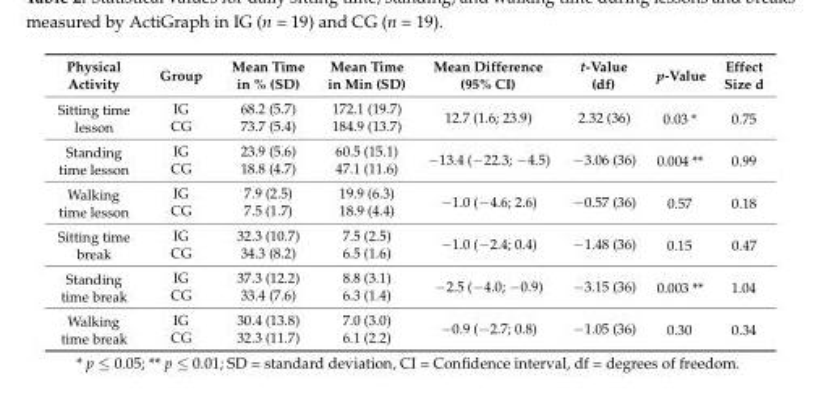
<table><thead><tr><td>Physical Activity</td><td>Group</td><td>Mean Time in % (SD)</td><td>Mean Time in Min (SD)</td><td>Mean Difference (95% CI)</td><td>t-Value (df)</td><td>p-Value</td><td>Effect Size d</td></tr></thead><tbody><tr><td rowspan="2">Sitting time lesson</td><td>IG</td><td>68.2 (5.7)</td><td>172.1 (19.7)</td><td rowspan="2">12.7 (1.6; 23.9)</td><td rowspan="2">2.32 (36)</td><td rowspan="2">0.03 *</td><td rowspan="2">0.75</td></tr><tr><td>CG</td><td>73.7 (5.4)</td><td>184.9 (13.7)</td></tr><tr><td rowspan="2">Standing time lesson</td><td>IG</td><td>23.9 (5.6)</td><td>60.5 (15.1)</td><td rowspan="2">−13.4 (−22.3; −4.5)</td><td rowspan="2">−3.06 (36)</td><td rowspan="2">0.004 **</td><td rowspan="2">0.99</td></tr><tr><td>CG</td><td>18.8 (4.7)</td><td>47.1 (11.6)</td></tr><tr><td rowspan="2">Walking time lesson</td><td>IG</td><td>7.9 (2.5)</td><td>19.9 (6.3)</td><td rowspan="2">−1.0 (−4.6; 2.6)</td><td rowspan="2">−0.57 (36)</td><td rowspan="2">0.57</td><td rowspan="2">0.18</td></tr><tr><td>CG</td><td>7.5 (1.7)</td><td>18.9 (4.4)</td></tr><tr><td rowspan="2">Sitting time break</td><td>IG</td><td>32.3 (10.7)</td><td>7.5 (2.5)</td><td rowspan="2">−1.0 (−2.4; 0.4)</td><td rowspan="2">−1.48 (36)</td><td rowspan="2">0.15</td><td rowspan="2">0.47</td></tr><tr><td>CG</td><td>34.3 (8.2)</td><td>6.5 (1.6)</td></tr><tr><td rowspan="2">Standing time break</td><td>IG</td><td>37.3 (12.2)</td><td>8.8 (3.1)</td><td rowspan="2">−2.5 (−4.0; −0.9)</td><td rowspan="2">−3.15 (36)</td><td rowspan="2">0.003 **</td><td rowspan="2">1.04</td></tr><tr><td>CG</td><td>33.4 (7.6)</td><td>6.3 (1.4)</td></tr><tr><td rowspan="2">Walking time break</td><td>IG</td><td>30.4 (13.8)</td><td>7.0 (3.0)</td><td rowspan="2">−0.9 (−2.7; 0.8)</td><td rowspan="2">−1.05 (36)</td><td rowspan="2">0.30</td><td rowspan="2">0.34</td></tr><tr><td>CG</td><td>32.3 (11.7)</td><td>6.1 (2.2)</td></tr></tbody></table>